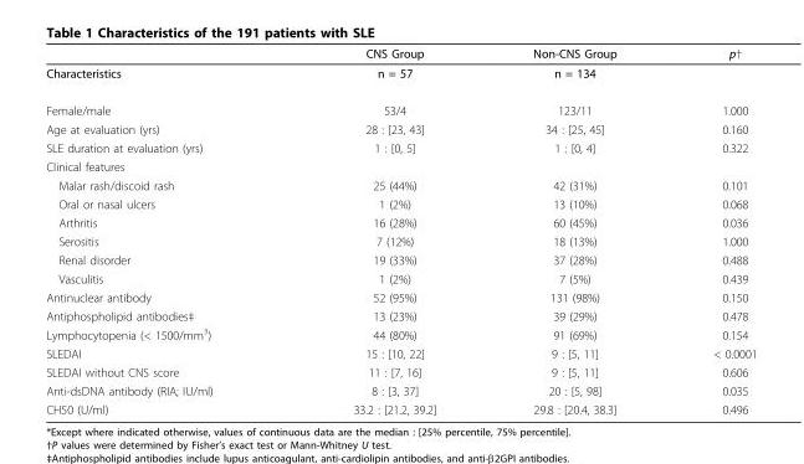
<table><thead><tr><td rowspan="2">Characteristics</td><td rowspan="2">CNS Group n = 57</td><td rowspan="2">Non-CNS Group n = 134</td><td rowspan="2">p†</td></tr><tr></tr></thead><tbody><tr><td>Female/male</td><td>53/4</td><td>123/11</td><td>1.000</td></tr><tr><td>Age at evaluation (yrs)</td><td>28 : [23, 43]</td><td>34 : [25, 45]</td><td>0.160</td></tr><tr><td>SLE duration at evaluation (yrs)</td><td>1 : [0, 5]</td><td>1 : [0, 4]</td><td>0.322</td></tr><tr><td colspan="4">Clinical features</td></tr><tr><td>Malar rash/discoid rash</td><td>25 (44%)</td><td>42 (31%)</td><td>0.101</td></tr><tr><td>Oral or nasal ulcers</td><td>1 (2%)</td><td>13 (10%)</td><td>0.068</td></tr><tr><td>Arthritis</td><td>16 (28%)</td><td>60 (45%)</td><td>0.036</td></tr><tr><td>Serositis</td><td>7 (12%)</td><td>18 (13%)</td><td>1.000</td></tr><tr><td>Renal disorder</td><td>19 (33%)</td><td>37 (28%)</td><td>0.488</td></tr><tr><td>Vasculitis</td><td>1 (2%)</td><td>7 (5%)</td><td>0.439</td></tr><tr><td>Antinuclear antibody</td><td>52 (95%)</td><td>131 (98%)</td><td>0.150</td></tr><tr><td>Antiphospholipid antibodies‡</td><td>13 (23%)</td><td>39 (29%)</td><td>0.478</td></tr><tr><td>Lymphocytopenia (&lt; 1500/mm<sup>3</sup>)</td><td>44 (80%)</td><td>91 (69%)</td><td>0.154</td></tr><tr><td>SLEDAI</td><td>15 : [10, 22]</td><td>9 : [5, 11]</td><td>&lt; 0.0001</td></tr><tr><td>SLEDAI without CNS score</td><td>11 : [7, 16]</td><td>9 : [5, 11]</td><td>0.606</td></tr><tr><td>Anti-dsDNA antibody (RIA; IU/ml)</td><td>8 : [3, 37]</td><td>20 : [5, 98]</td><td>0.035</td></tr><tr><td>CH50 (U/ml)</td><td>33.2 : [21.2, 39.2]</td><td>29.8 : [20.4, 38.3]</td><td>0.496</td></tr></tbody></table>